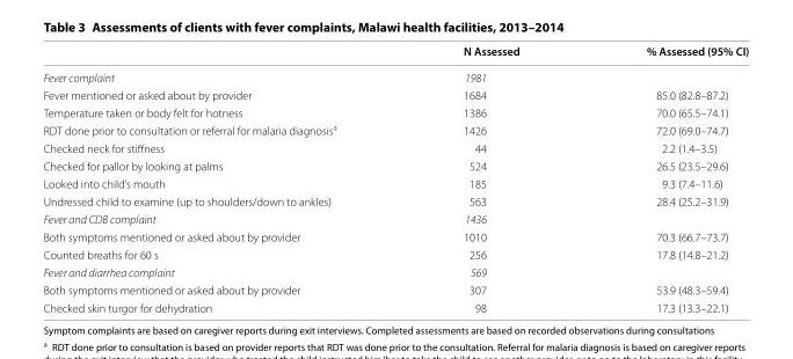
<table><thead><tr><td></td><td>N Assessed</td><td>% Assessed (95% CI)</td></tr></thead><tbody><tr><td>Fever complaint</td><td>1981</td><td></td></tr><tr><td>Fever mentioned or asked about by provider</td><td>1684</td><td>85.0 (82.8–87.2)</td></tr><tr><td>Temperature taken or body felt for hotness</td><td>1386</td><td>70.0 (65.5–74.1)</td></tr><tr><td>RDT done prior to consultation or referral for malaria diagnosis<sup>a</sup></td><td>1426</td><td>72.0 (69.0–74.7)</td></tr><tr><td>Checked neck for stiffness</td><td>44</td><td>2.2 (1.4–3.5)</td></tr><tr><td>Checked for pallor by looking at palms</td><td>524</td><td>26.5 (23.5–29.6)</td></tr><tr><td>Looked into child’s mouth</td><td>185</td><td>9.3 (7.4–11.6)</td></tr><tr><td>Undressed child to examine (up to shoulders/down to ankles)</td><td>563</td><td>28.4 (25.2–31.9)</td></tr><tr><td>Fever and CDB complaint</td><td>1436</td><td></td></tr><tr><td>Both symptoms mentioned or asked about by provider</td><td>1010</td><td>70.3 (66.7–73.7)</td></tr><tr><td>Counted breaths for 60 s</td><td>256</td><td>17.8 (14.8–21.2)</td></tr><tr><td>Fever and diarrhea complaint</td><td>569</td><td></td></tr><tr><td>Both symptoms mentioned or asked about by provider</td><td>307</td><td>53.9 (48.3–59.4)</td></tr><tr><td>Checked skin turgor for dehydration</td><td>98</td><td>17.3 (13.3–22.1)</td></tr></tbody></table>